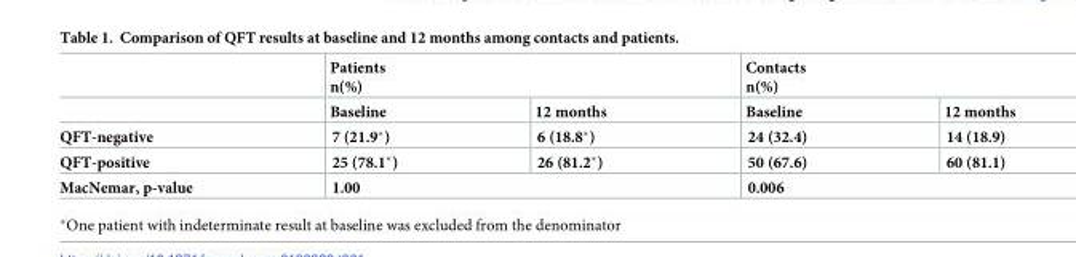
<table><thead><tr><td rowspan="2"></td><td colspan="2">Patients n(%)</td><td colspan="2">Contacts n(%)</td></tr><tr><td>Baseline</td><td>12 months</td><td>Baseline</td><td>12 months</td></tr></thead><tbody><tr><td>QFT-negative</td><td>7 (21.9*)</td><td>6 (18.8*)</td><td>24 (32.4)</td><td>14 (18.9)</td></tr><tr><td>QFT-positive</td><td>25 (78.1*)</td><td>26 (81.2*)</td><td>50 (67.6)</td><td>60 (81.1)</td></tr><tr><td>MacNemar, p-value</td><td colspan="2">1.00</td><td colspan="2">0.006</td></tr></tbody></table>